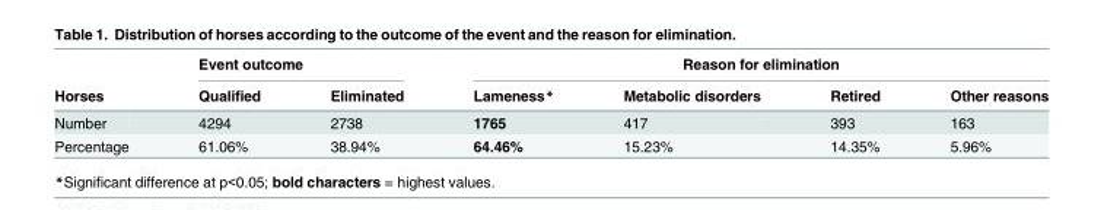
<table><thead><tr><td rowspan="2">Horses</td><td colspan="2">Event outcome</td><td colspan="4">Reason for elimination</td></tr><tr><td>Qualified</td><td>Eliminated</td><td>Lameness*</td><td>Metabolic disorders</td><td>Retired</td><td>Other reasons</td></tr></thead><tbody><tr><td>Number</td><td>4294</td><td>2738</td><td>1765</td><td>417</td><td>393</td><td>163</td></tr><tr><td>Percentage</td><td>61.06%</td><td>38.94%</td><td>64.46%</td><td>15.23%</td><td>14.35%</td><td>5.96%</td></tr></tbody></table>